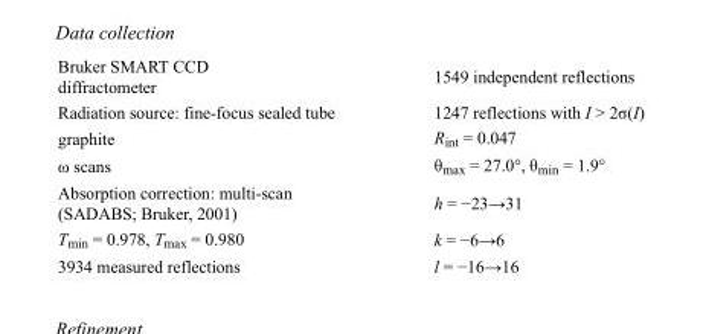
<table><tbody><tr><td>Bruker SMART CCD diffractometer</td><td>1549 independent reflections</td></tr><tr><td>Radiation source: fine-focus sealed tube</td><td>1247 reflections with I &gt; 2σ(I)</td></tr><tr><td>graphite</td><td>R<sub>int</sub> = 0.047</td></tr><tr><td>ω scans</td><td>θ<sub>max</sub> = 27.0°, θ<sub>min</sub> = 1.9°</td></tr><tr><td>Absorption correction: multi-scan (SADABS; Bruker, 2001)</td><td>h = −23→31</td></tr><tr><td>T<sub>min</sub> = 0.978, T<sub>max</sub> = 0.980</td><td>k = −6→6</td></tr><tr><td>3934 measured reflections</td><td>l = −16→16</td></tr></tbody></table>